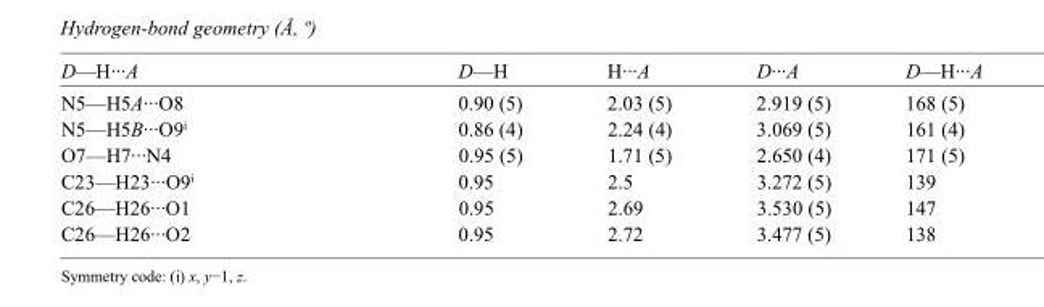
<table><tbody><tr><td>D—H···A</td><td>D—H</td><td>H···A</td><td>D···A</td><td>D—H···A</td></tr><tr><td>N5—H5A···O8</td><td>0.90 (5)</td><td>2.03 (5)</td><td>2.919 (5)</td><td>168 (5)</td></tr><tr><td>N5—H5B···O9<sup>i</sup></td><td>0.86 (4)</td><td>2.24 (4)</td><td>3.069 (5)</td><td>161 (4)</td></tr><tr><td>O7—H7···N4</td><td>0.95 (5)</td><td>1.71 (5)</td><td>2.650 (4)</td><td>171 (5)</td></tr><tr><td>C23—H23···O9<sup>i</sup></td><td>0.95</td><td>2.5</td><td>3.272 (5)</td><td>139</td></tr><tr><td>C26—H26···O1</td><td>0.95</td><td>2.69</td><td>3.530 (5)</td><td>147</td></tr><tr><td>C26—H26···O2</td><td>0.95</td><td>2.72</td><td>3.477 (5)</td><td>138</td></tr></tbody></table>